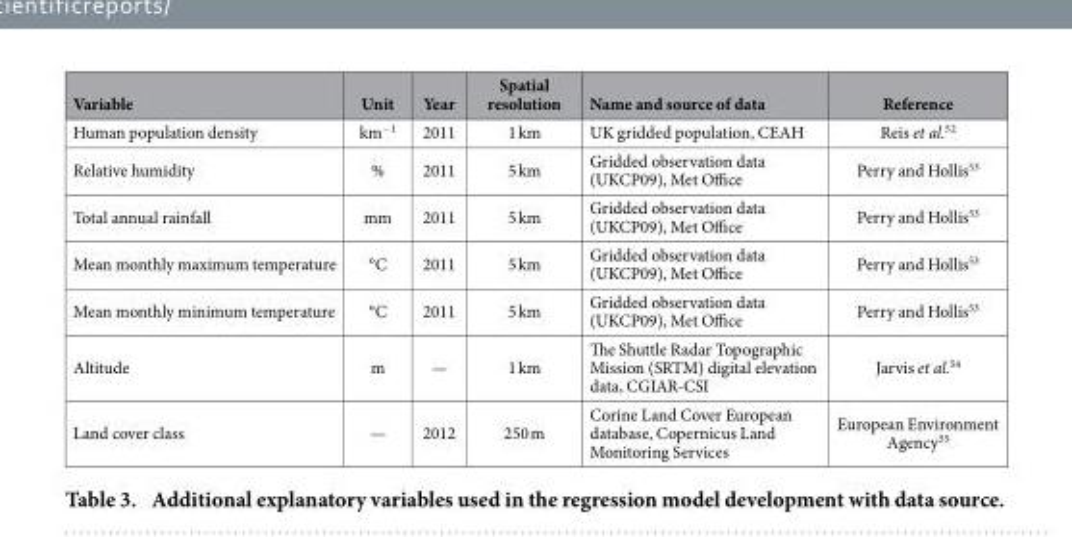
<table><thead><tr><td>Variable</td><td>Unit</td><td>Year</td><td>Spatial resolution</td><td>Name and source of data</td><td>Reference</td></tr></thead><tbody><tr><td>Human population density</td><td>km<sup>−1</sup></td><td>2011</td><td>1 km</td><td>UK gridded population, CEAH</td><td>Reis et al.<sup>52</sup></td></tr><tr><td>Relative humidity</td><td>%</td><td>2011</td><td>5 km</td><td>Gridded observation data (UKCP09), Met Office</td><td>Perry and Hollis<sup>53</sup></td></tr><tr><td>Total annual rainfall</td><td>mm</td><td>2011</td><td>5 km</td><td>Gridded observation data (UKCP09), Met Office</td><td>Perry and Hollis<sup>53</sup></td></tr><tr><td>Mean monthly maximum temperature</td><td>°C</td><td>2011</td><td>5 km</td><td>Gridded observation data (UKCP09), Met Office</td><td>Perry and Hollis<sup>53</sup></td></tr><tr><td>Mean monthly minimum temperature</td><td>°C</td><td>2011</td><td>5 km</td><td>Gridded observation data (UKCP09), Met Office</td><td>Perry and Hollis<sup>53</sup></td></tr><tr><td>Altitude</td><td>m</td><td>—</td><td>1 km</td><td>The Shuttle Radar Topographic Mission (SRTM) digital elevation data, CGIAR-CSI</td><td>Jarvis et al.<sup>54</sup></td></tr><tr><td>Land cover class</td><td>—</td><td>2012</td><td>250 m</td><td>Corine Land Cover European database, Copernicus Land Monitoring Services</td><td>European Environment Agency<sup>55</sup></td></tr></tbody></table>